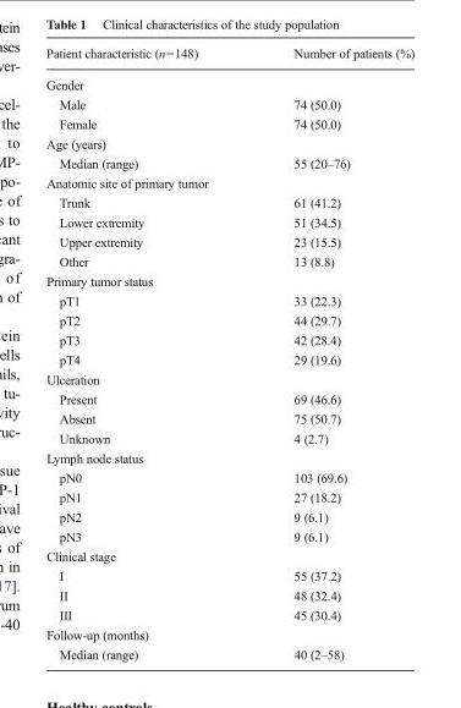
<table><thead><tr><td>Patient characteristic (n=148)</td><td>Number of patients (%)</td></tr></thead><tbody><tr><td colspan="2">Gender</td></tr><tr><td>Male</td><td>74 (50.0)</td></tr><tr><td>Female</td><td>74 (50.0)</td></tr><tr><td colspan="2">Age (years)</td></tr><tr><td>Median (range)</td><td>55 (20–76)</td></tr><tr><td colspan="2">Anatomic site of primary tumor</td></tr><tr><td>Trunk</td><td>61 (41.2)</td></tr><tr><td>Lower extremity</td><td>51 (34.5)</td></tr><tr><td>Upper extremity</td><td>23 (15.5)</td></tr><tr><td>Other</td><td>13 (8.8)</td></tr><tr><td colspan="2">Primary tumor status</td></tr><tr><td>pT1</td><td>33 (22.3)</td></tr><tr><td>pT2</td><td>44 (29.7)</td></tr><tr><td>pT3</td><td>42 (28.4)</td></tr><tr><td>pT4</td><td>29 (19.6)</td></tr><tr><td colspan="2">Ulceration</td></tr><tr><td>Present</td><td>69 (46.6)</td></tr><tr><td>Absent</td><td>75 (50.7)</td></tr><tr><td>Unknown</td><td>4 (2.7)</td></tr><tr><td colspan="2">Lymph node status</td></tr><tr><td>pN0</td><td>103 (69.6)</td></tr><tr><td>pN1</td><td>27 (18.2)</td></tr><tr><td>pN2</td><td>9 (6.1)</td></tr><tr><td>pN3</td><td>9 (6.1)</td></tr><tr><td colspan="2">Clinical stage</td></tr><tr><td>I</td><td>55 (37.2)</td></tr><tr><td>II</td><td>48 (32.4)</td></tr><tr><td>III</td><td>45 (30.4)</td></tr><tr><td colspan="2">Follow-up (months)</td></tr><tr><td>Median (range)</td><td>40 (2–58)</td></tr></tbody></table>